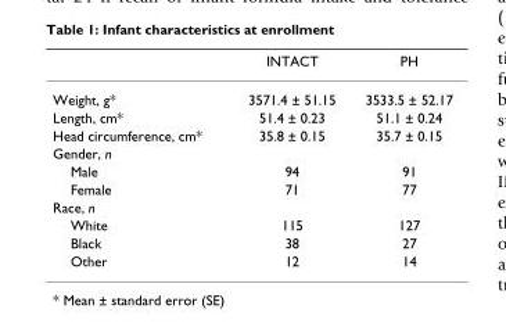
<table><thead><tr><td></td><td>INTACT</td><td>PH</td></tr></thead><tbody><tr><td>Weight, g*</td><td>3571.4 ± 51.15</td><td>3533.5 ± 52.17</td></tr><tr><td>Length, cm*</td><td>51.4 ± 0.23</td><td>51.1 ± 0.24</td></tr><tr><td>Head circumference, cm*</td><td>35.8 ± 0.15</td><td>35.7 ± 0.15</td></tr><tr><td colspan="3">Gender, n</td></tr><tr><td>Male</td><td>94</td><td>91</td></tr><tr><td>Female</td><td>71</td><td>77</td></tr><tr><td colspan="3">Race, n</td></tr><tr><td>White</td><td>115</td><td>127</td></tr><tr><td>Black</td><td>38</td><td>27</td></tr><tr><td>Other</td><td>12</td><td>14</td></tr></tbody></table>